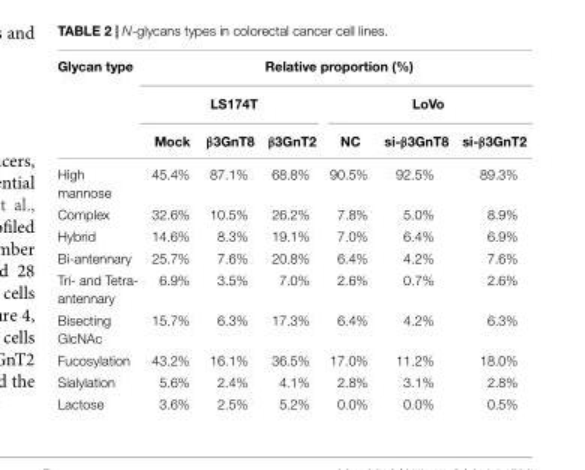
<table><thead><tr><td rowspan="3">Glycan type</td><td colspan="6">Relative proportion (%)</td></tr><tr><td colspan="3">LS174T</td><td colspan="3">LoVo</td></tr><tr><td>Mock</td><td>β3GnT8</td><td>β3GnT2</td><td>NC</td><td>si-β3GnT8</td><td>si-β3GnT2</td></tr></thead><tbody><tr><td>High mannose</td><td>45.4%</td><td>87.1%</td><td>68.8%</td><td>90.5%</td><td>92.5%</td><td>89.3%</td></tr><tr><td>Complex</td><td>32.6%</td><td>10.5%</td><td>26.2%</td><td>7.8%</td><td>5.0%</td><td>8.9%</td></tr><tr><td>Hybrid</td><td>14.6%</td><td>8.3%</td><td>19.1%</td><td>7.0%</td><td>6.4%</td><td>6.9%</td></tr><tr><td>Bi-antennary</td><td>25.7%</td><td>7.6%</td><td>20.8%</td><td>6.4%</td><td>4.2%</td><td>7.6%</td></tr><tr><td>Tri- and Tetra- antennary</td><td>6.9%</td><td>3.5%</td><td>7.0%</td><td>2.6%</td><td>0.7%</td><td>2.6%</td></tr><tr><td>Bisecting GlcNAc</td><td>15.7%</td><td>6.3%</td><td>17.3%</td><td>6.4%</td><td>4.2%</td><td>6.3%</td></tr><tr><td>Fucosylation</td><td>43.2%</td><td>16.1%</td><td>36.5%</td><td>17.0%</td><td>11.2%</td><td>18.0%</td></tr><tr><td>Sialylation</td><td>5.6%</td><td>2.4%</td><td>4.1%</td><td>2.8%</td><td>3.1%</td><td>2.8%</td></tr><tr><td>Lactose</td><td>3.6%</td><td>2.5%</td><td>5.2%</td><td>0.0%</td><td>0.0%</td><td>0.5%</td></tr></tbody></table>